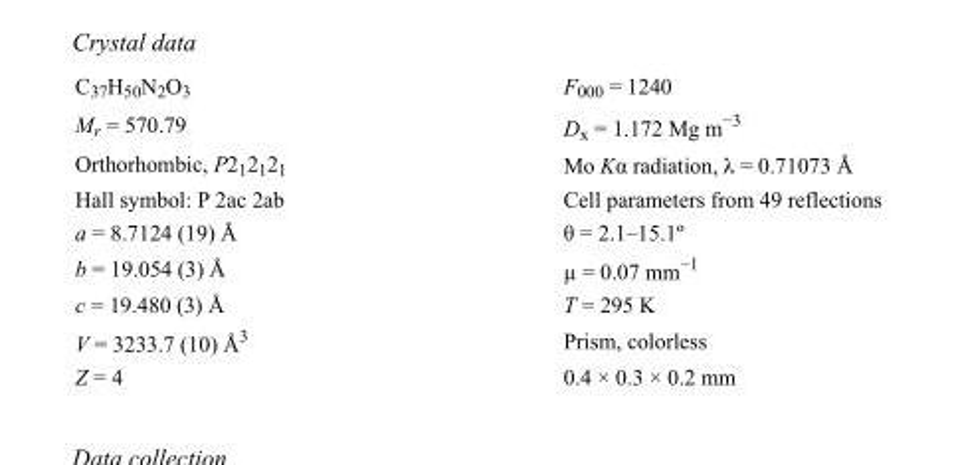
<table><tbody><tr><td>C<sub>37</sub>H<sub>50</sub>N<sub>2</sub>O<sub>3</sub></td><td>F000 = 1240</td></tr><tr><td>M<sub>r</sub> = 570.79</td><td>D<sub>x</sub> = 1.172 Mg m<sup>−3</sup></td></tr><tr><td>Orthorhombic, P2<sub>1</sub>2<sub>1</sub>2<sub>1</sub></td><td>Mo Kα radiation, λ = 0.71073 Å</td></tr><tr><td>Hall symbol: P 2ac 2ab</td><td>Cell parameters from 49 reflections</td></tr><tr><td>a = 8.7124 (19) Å</td><td>θ = 2.1–15.1º</td></tr><tr><td>b = 19.054 (3) Å</td><td>µ = 0.07 mm<sup>−1</sup></td></tr><tr><td>c = 19.480 (3) Å</td><td>T = 295 K</td></tr><tr><td>V = 3233.7 (10) Å<sup>3</sup></td><td>Prism, colorless</td></tr><tr><td>Z = 4</td><td>0.4 × 0.3 × 0.2 mm</td></tr></tbody></table>